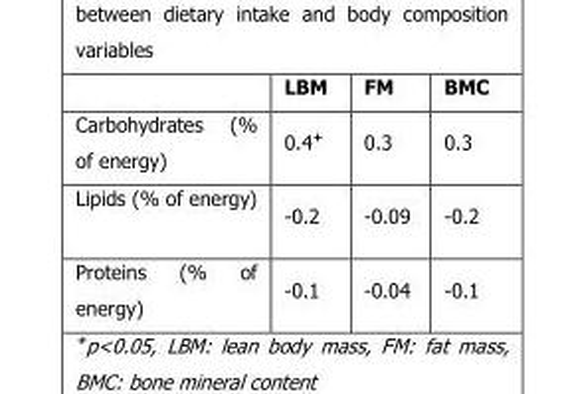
<table><thead><tr><td></td><td>LBM</td><td>FM</td><td>BMC</td></tr></thead><tbody><tr><td>Carbohydrates (% of energy)</td><td>0.4+</td><td>0.3</td><td>0.3</td></tr><tr><td>Lipids (% of energy)</td><td>-0.2</td><td>-0.09</td><td>-0.2</td></tr><tr><td>Proteins (% of energy)</td><td>-0.1</td><td>-0.04</td><td>-0.1</td></tr></tbody></table>